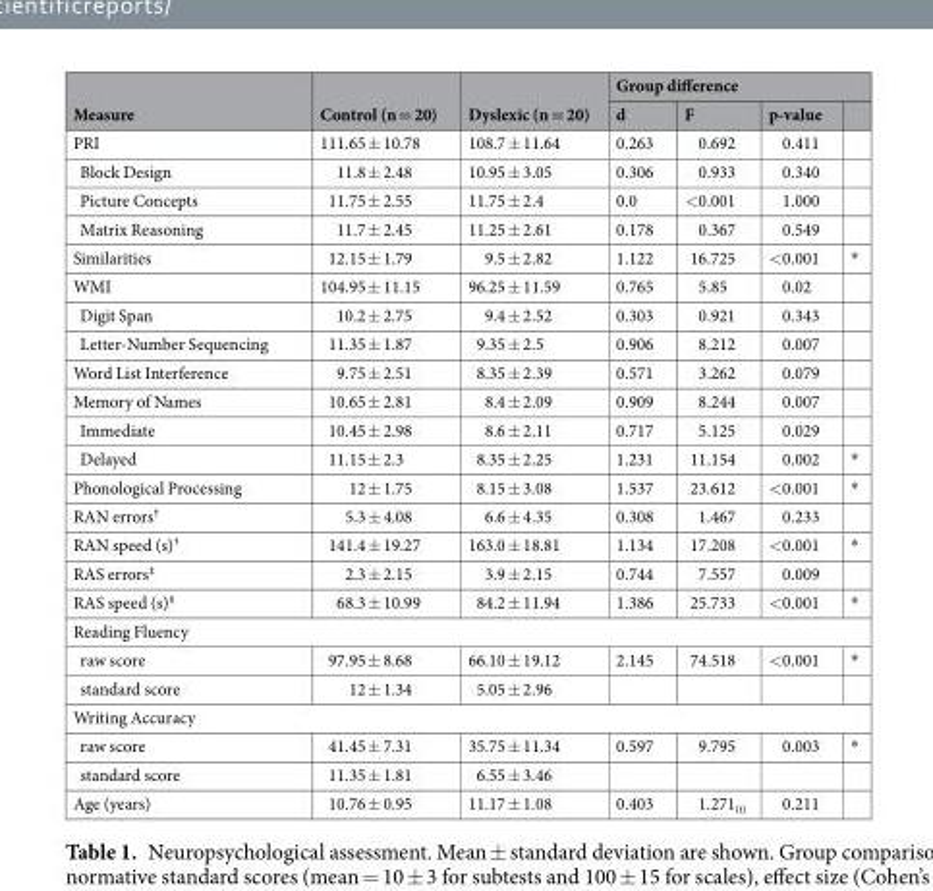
<table><thead><tr><td rowspan="2">Measure</td><td rowspan="2">Control (n = 20)</td><td rowspan="2">Dyslexic (n = 20)</td><td colspan="4">Group difference</td></tr><tr><td>d</td><td>F</td><td>p-value</td><td></td></tr></thead><tbody><tr><td>PRI</td><td>111.65 ± 10.78</td><td>108.7 ± 11.64</td><td>0.263</td><td>0.692</td><td>0.411</td><td></td></tr><tr><td>Block Design</td><td>11.8 ± 2.48</td><td>10.95 ± 3.05</td><td>0.306</td><td>0.933</td><td>0.340</td><td></td></tr><tr><td>Picture Concepts</td><td>11.75 ± 2.55</td><td>11.75 ± 2.4</td><td>0.0</td><td>&lt;0.001</td><td>1.000</td><td></td></tr><tr><td>Matrix Reasoning</td><td>11.7 ± 2.45</td><td>11.25 ± 2.61</td><td>0.178</td><td>0.367</td><td>0.549</td><td></td></tr><tr><td>Similarities</td><td>12.15 ± 1.79</td><td>9.5 ± 2.82</td><td>1.122</td><td>16.725</td><td>&lt;0.001</td><td>*</td></tr><tr><td>WMI</td><td>104.95 ± 11.15</td><td>96.25 ± 11.59</td><td>0.765</td><td>5.85</td><td>0.02</td><td></td></tr><tr><td>Digit Span</td><td>10.2 ± 2.75</td><td>9.4 ± 2.52</td><td>0.303</td><td>0.921</td><td>0.343</td><td></td></tr><tr><td>Letter-Number Sequencing</td><td>11.35 ± 1.87</td><td>9.35 ± 2.5</td><td>0.906</td><td>8.212</td><td>0.007</td><td></td></tr><tr><td>Word List Interference</td><td>9.75 ± 2.51</td><td>8.35 ± 2.39</td><td>0.571</td><td>3.262</td><td>0.079</td><td></td></tr><tr><td>Memory of Names</td><td>10.65 ± 2.81</td><td>8.4 ± 2.09</td><td>0.909</td><td>8.244</td><td>0.007</td><td></td></tr><tr><td>Immediate</td><td>10.45 ± 2.98</td><td>8.6 ± 2.11</td><td>0.717</td><td>5.125</td><td>0.029</td><td></td></tr><tr><td>Delayed</td><td>11.15 ± 2.3</td><td>8.35 ± 2.25</td><td>1.231</td><td>11.154</td><td>0.002</td><td>*</td></tr><tr><td>Phonological Processing</td><td>12 ± 1.75</td><td>8.15 ± 3.08</td><td>1.537</td><td>23.612</td><td>&lt;0.001</td><td>*</td></tr><tr><td>RAN errors<sup>†</sup></td><td>5.3 ± 4.08</td><td>6.6 ± 4.35</td><td>0.308</td><td>1.467</td><td>0.233</td><td></td></tr><tr><td>RAN speed (s)<sup>†</sup></td><td>141.4 ± 19.27</td><td>163.0 ± 18.81</td><td>1.134</td><td>17.208</td><td>&lt;0.001</td><td>*</td></tr><tr><td>RAS errors<sup>‡</sup></td><td>2.3 ± 2.15</td><td>3.9 ± 2.15</td><td>0.744</td><td>7.557</td><td>0.009</td><td></td></tr><tr><td>RAS speed (s)<sup>‡</sup></td><td>68.3 ± 10.99</td><td>84.2 ± 11.94</td><td>1.386</td><td>25.733</td><td>&lt;0.001</td><td>*</td></tr><tr><td colspan="7">Reading Fluency</td></tr><tr><td>raw score</td><td>97.95 ± 8.68</td><td>66.10 ± 19.12</td><td>2.145</td><td>74.518</td><td>&lt;0.001</td><td>*</td></tr><tr><td>standard score</td><td>12 ± 1.34</td><td>5.05 ± 2.96</td><td></td><td></td><td></td><td></td></tr><tr><td colspan="7">Writing Accuracy</td></tr><tr><td>raw score</td><td>41.45 ± 7.31</td><td>35.75 ± 11.34</td><td>0.597</td><td>9.795</td><td>0.003</td><td>*</td></tr><tr><td>standard score</td><td>11.35 ± 1.81</td><td>6.55 ± 3.46</td><td></td><td></td><td></td><td></td></tr><tr><td>Age (years)</td><td>10.76 ± 0.95</td><td>11.17 ± 1.08</td><td>0.403</td><td>1.271<sub>(t)</sub></td><td>0.211</td><td></td></tr></tbody></table>